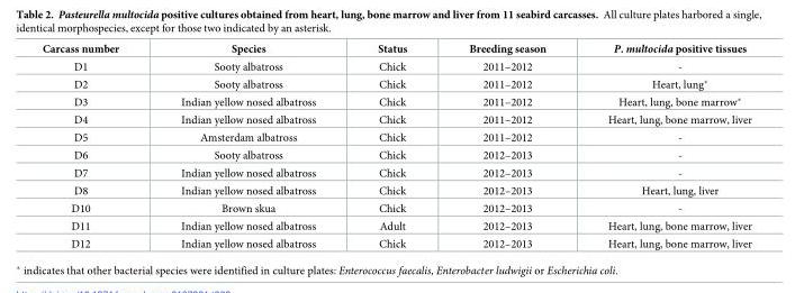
<table><thead><tr><td>Carcass number</td><td>Species</td><td>Status</td><td>Breeding season</td><td>P. multocida positive tissues</td></tr></thead><tbody><tr><td>D1</td><td>Sooty albatross</td><td>Chick</td><td>2011–2012</td><td>-</td></tr><tr><td>D2</td><td>Sooty albatross</td><td>Chick</td><td>2011–2012</td><td>Heart, lung*</td></tr><tr><td>D3</td><td>Indian yellow nosed albatross</td><td>Chick</td><td>2011–2012</td><td>Heart, lung, bone marrow*</td></tr><tr><td>D4</td><td>Indian yellow nosed albatross</td><td>Chick</td><td>2011–2012</td><td>Heart, lung, bone marrow, liver</td></tr><tr><td>D5</td><td>Amsterdam albatross</td><td>Chick</td><td>2011–2012</td><td>-</td></tr><tr><td>D6</td><td>Sooty albatross</td><td>Chick</td><td>2012–2013</td><td>-</td></tr><tr><td>D7</td><td>Indian yellow nosed albatross</td><td>Chick</td><td>2012–2013</td><td>-</td></tr><tr><td>D8</td><td>Indian yellow nosed albatross</td><td>Chick</td><td>2012–2013</td><td>Heart, lung, liver</td></tr><tr><td>D10</td><td>Brown skua</td><td>Chick</td><td>2012–2013</td><td>-</td></tr><tr><td>D11</td><td>Indian yellow nosed albatross</td><td>Adult</td><td>2012–2013</td><td>Heart, lung, bone marrow, liver</td></tr><tr><td>D12</td><td>Indian yellow nosed albatross</td><td>Chick</td><td>2012–2013</td><td>Heart, lung, bone marrow, liver</td></tr></tbody></table>